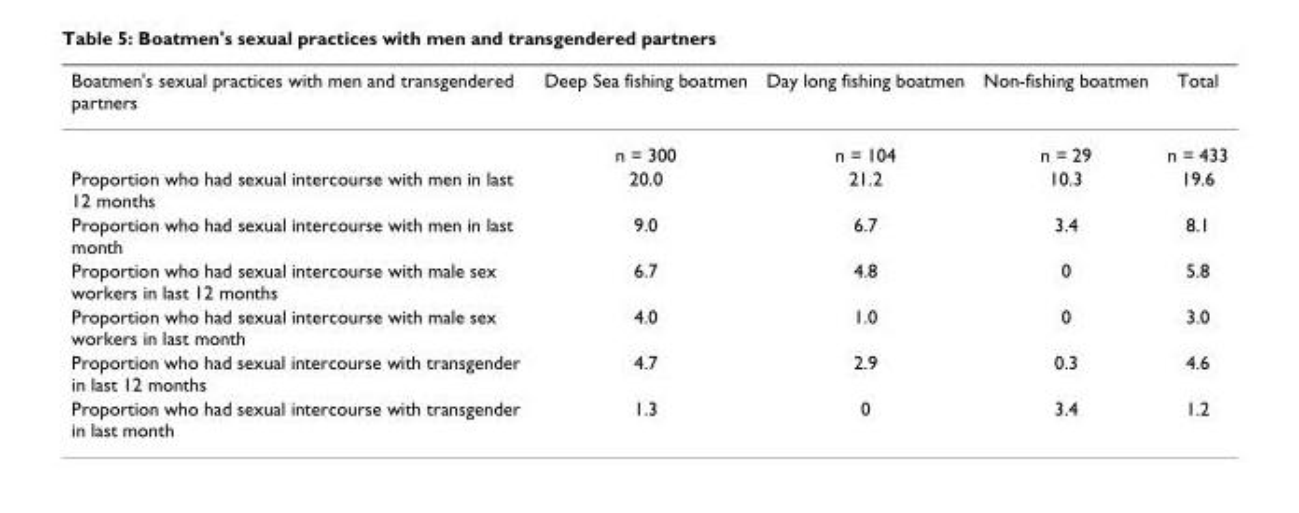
<table><thead><tr><td>Boatmen&#x27;s sexual practices with men and transgendered partners</td><td>Deep Sea fishing boatmen</td><td>Day long fishing boatmen</td><td>Non-fishing boatmen</td><td>Total</td></tr></thead><tbody><tr><td></td><td>n = 300</td><td>n = 104</td><td>n = 29</td><td>n = 433</td></tr><tr><td>Proportion who had sexual intercourse with men in last 12 months</td><td>20.0</td><td>21.2</td><td>10.3</td><td>19.6</td></tr><tr><td>Proportion who had sexual intercourse with men in last month</td><td>9.0</td><td>6.7</td><td>3.4</td><td>8.1</td></tr><tr><td>Proportion who had sexual intercourse with male sex workers in last 12 months</td><td>6.7</td><td>4.8</td><td>0</td><td>5.8</td></tr><tr><td>Proportion who had sexual intercourse with male sex workers in last month</td><td>4.0</td><td>1.0</td><td>0</td><td>3.0</td></tr><tr><td>Proportion who had sexual intercourse with transgender in last 12 months</td><td>4.7</td><td>2.9</td><td>0.3</td><td>4.6</td></tr><tr><td>Proportion who had sexual intercourse with transgender in last month</td><td>1.3</td><td>0</td><td>3.4</td><td>1.2</td></tr></tbody></table>